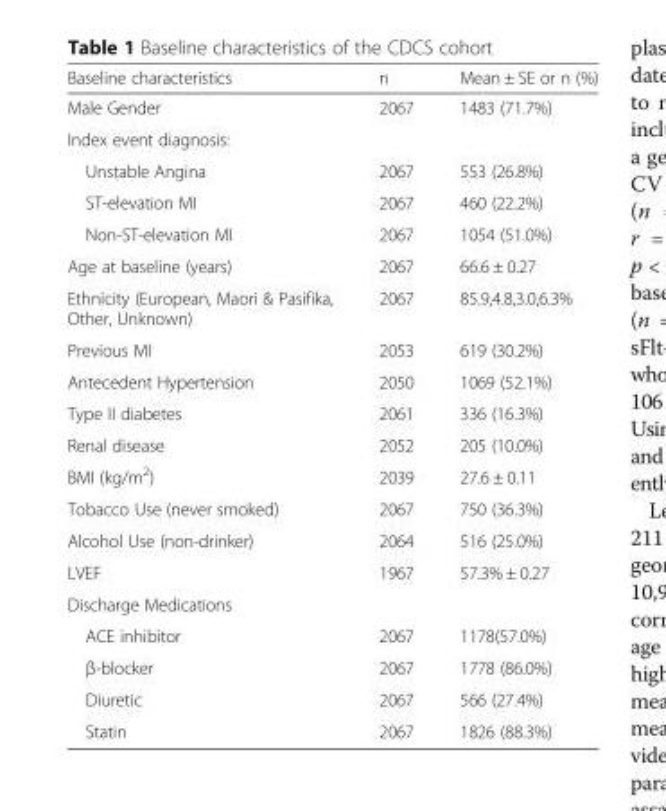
<table><thead><tr><td>Baseline characteristics</td><td>n</td><td>Mean ± SE or n (%)</td></tr></thead><tbody><tr><td>Male Gender</td><td>2067</td><td>1483 (71.7%)</td></tr><tr><td colspan="3">Index event diagnosis:</td></tr><tr><td>Unstable Angina</td><td>2067</td><td>553 (26.8%)</td></tr><tr><td>ST-elevation MI</td><td>2067</td><td>460 (22.2%)</td></tr><tr><td>Non-ST-elevation MI</td><td>2067</td><td>1054 (51.0%)</td></tr><tr><td>Age at baseline (years)</td><td>2067</td><td>66.6 ± 0.27</td></tr><tr><td>Ethnicity (European, Maori &amp; Pasifika, Other, Unknown)</td><td>2067</td><td>85.9,4.8,3.0,6.3%</td></tr><tr><td>Previous MI</td><td>2053</td><td>619 (30.2%)</td></tr><tr><td>Antecedent Hypertension</td><td>2050</td><td>1069 (52.1%)</td></tr><tr><td>Type II diabetes</td><td>2061</td><td>336 (16.3%)</td></tr><tr><td>Renal disease</td><td>2052</td><td>205 (10.0%)</td></tr><tr><td>BMI (kg/m<sup>2</sup>)</td><td>2039</td><td>27.6 ± 0.11</td></tr><tr><td>Tobacco Use (never smoked)</td><td>2067</td><td>750 (36.3%)</td></tr><tr><td>Alcohol Use (non-drinker)</td><td>2064</td><td>516 (25.0%)</td></tr><tr><td>LVEF</td><td>1967</td><td>57.3% ± 0.27</td></tr><tr><td colspan="3">Discharge Medications</td></tr><tr><td>ACE inhibitor</td><td>2067</td><td>1178(57.0%)</td></tr><tr><td>β-blocker</td><td>2067</td><td>1778 (86.0%)</td></tr><tr><td>Diuretic</td><td>2067</td><td>566 (27.4%)</td></tr><tr><td>Statin</td><td>2067</td><td>1826 (88.3%)</td></tr></tbody></table>